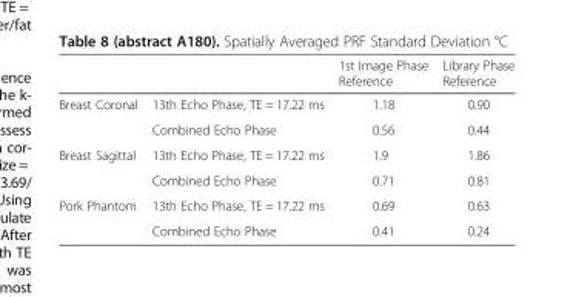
<table><thead><tr><td></td><td></td><td>1st Image Phase Reference</td><td>Library Phase Reference</td></tr></thead><tbody><tr><td rowspan="2">Breast Coronal</td><td>13th Echo Phase, TE = 17.22 ms</td><td>1.18</td><td>0.90</td></tr><tr><td>Combined Echo Phase</td><td>0.56</td><td>0.44</td></tr><tr><td rowspan="2">Breast Sagittal</td><td>13th Echo Phase, TE = 17.22 ms</td><td>1.9</td><td>1.86</td></tr><tr><td>Combined Echo Phase</td><td>0.71</td><td>0.81</td></tr><tr><td rowspan="2">Pork Phantom</td><td>13th Echo Phase, TE = 17.22 ms</td><td>0.69</td><td>0.63</td></tr><tr><td>Combined Echo Phase</td><td>0.41</td><td>0.24</td></tr></tbody></table>